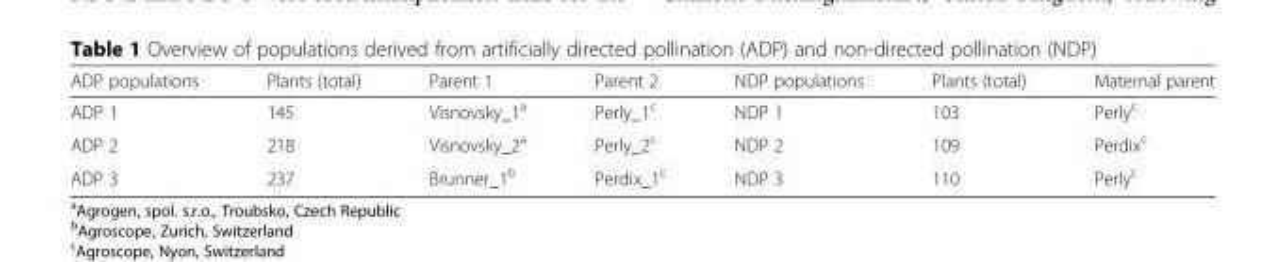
<table><thead><tr><td>ADP populations</td><td>Plants (total)</td><td>Parent 1</td><td>Parent 2</td><td>NDP populations</td><td>Plants (total)</td><td>Maternal parent</td></tr></thead><tbody><tr><td>ADP 1</td><td>145</td><td>Visnovsky_1<sup>a</sup></td><td>Perly_1<sup>c</sup></td><td>NDP 1</td><td>103</td><td>Perly<sup>c</sup></td></tr><tr><td>ADP 2</td><td>218</td><td>Visnovsky_2<sup>a</sup></td><td>Perly_2<sup>c</sup></td><td>NDP 2</td><td>109</td><td>Perdix<sup>c</sup></td></tr><tr><td>ADP 3</td><td>237</td><td>Brunner_1<sup>b</sup></td><td>Perdix_1<sup>c</sup></td><td>NDP 3</td><td>110</td><td>Perly<sup>c</sup></td></tr></tbody></table>